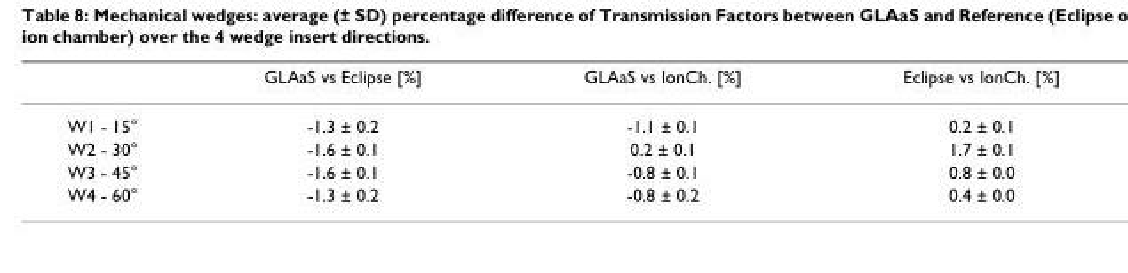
<table><thead><tr><td></td><td>GLAaS vs Eclipse [%]</td><td>GLAaS vs IonCh. [%]</td><td>Eclipse vs IonCh. [%]</td></tr></thead><tbody><tr><td>W1 - 15°</td><td>-1.3 ± 0.2</td><td>-1.1 ± 0.1</td><td>0.2 ± 0.1</td></tr><tr><td>W2 - 30°</td><td>-1.6 ± 0.1</td><td>0.2 ± 0.1</td><td>1.7 ± 0.1</td></tr><tr><td>W3 - 45°</td><td>-1.6 ± 0.1</td><td>-0.8 ± 0.1</td><td>0.8 ± 0.0</td></tr><tr><td>W4 - 60°</td><td>-1.3 ± 0.2</td><td>-0.8 ± 0.2</td><td>0.4 ± 0.0</td></tr></tbody></table>